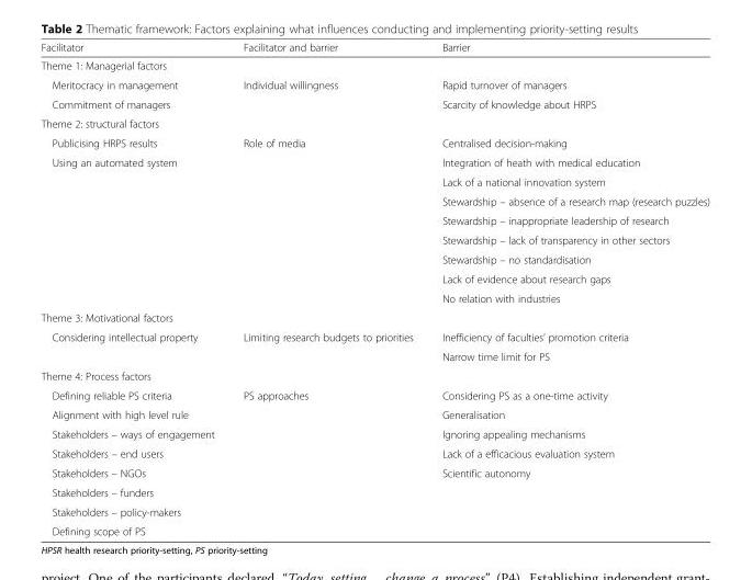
<table><thead><tr><td>Facilitator</td><td>Facilitator and barrier</td><td>Barrier</td></tr></thead><tbody><tr><td colspan="3">Theme 1: Managerial factors</td></tr><tr><td>Meritocracy in management</td><td>Individual willingness</td><td>Rapid turnover of managers</td></tr><tr><td>Commitment of managers</td><td></td><td>Scarcity of knowledge about HRPS</td></tr><tr><td colspan="3">Theme 2: structural factors</td></tr><tr><td>Publicising HRPS results</td><td>Role of media</td><td>Centralised decision-making</td></tr><tr><td rowspan="8">Using an automated system</td><td></td><td>Integration of heath with medical education</td></tr><tr><td></td><td>Lack of a national innovation system</td></tr><tr><td></td><td>Stewardship – absence of a research map (research puzzles)</td></tr><tr><td></td><td>Stewardship – inappropriate leadership of research</td></tr><tr><td></td><td>Stewardship – lack of transparency in other sectors</td></tr><tr><td></td><td>Stewardship – no standardisation</td></tr><tr><td></td><td>Lack of evidence about research gaps</td></tr><tr><td></td><td>No relation with industries</td></tr><tr><td colspan="3">Theme 3: Motivational factors</td></tr><tr><td rowspan="2">Considering intellectual property</td><td>Limiting research budgets to priorities</td><td>Inefficiency of faculties’ promotion criteria</td></tr><tr><td></td><td>Narrow time limit for PS</td></tr><tr><td colspan="3">Theme 4: Process factors</td></tr><tr><td>Defining reliable PS criteria</td><td>PS approaches</td><td>Considering PS as a one-time activity</td></tr><tr><td>Alignment with high level rule</td><td></td><td>Generalisation</td></tr><tr><td>Stakeholders – ways of engagement</td><td></td><td>Ignoring appealing mechanisms</td></tr><tr><td>Stakeholders – end users</td><td></td><td>Lack of a efficacious evaluation system</td></tr><tr><td>Stakeholders – NGOs</td><td></td><td>Scientific autonomy</td></tr><tr><td colspan="3">Stakeholders – funders</td></tr><tr><td colspan="3">Stakeholders – policy-makers</td></tr><tr><td>Defining scope of PS</td><td></td><td></td></tr></tbody></table>